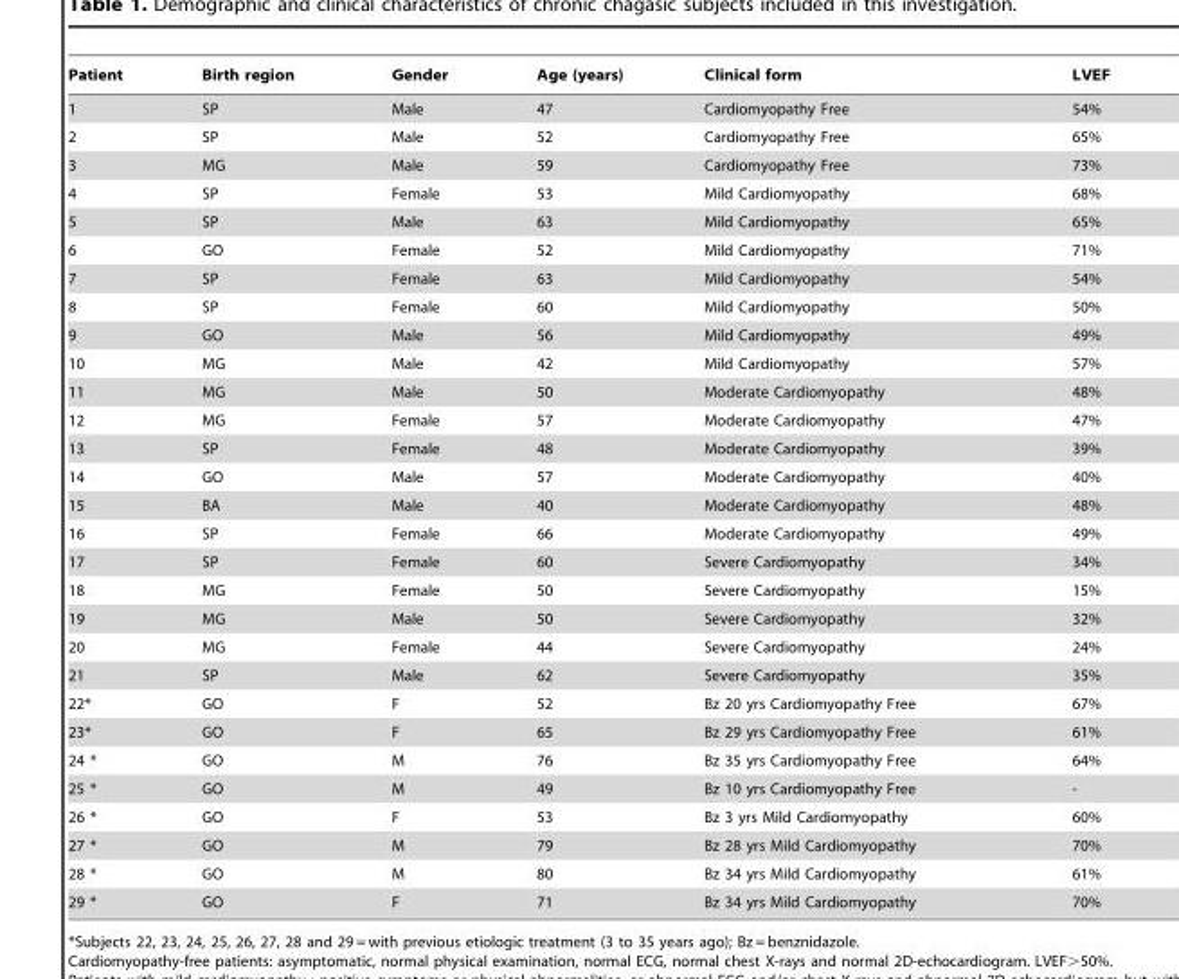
<table><thead><tr><td>Patient</td><td>Birth region</td><td>Gender</td><td>Age (years)</td><td>Clinical form</td><td>LVEF</td></tr></thead><tbody><tr><td>1</td><td>SP</td><td>Male</td><td>47</td><td>Cardiomyopathy Free</td><td>54%</td></tr><tr><td>2</td><td>SP</td><td>Male</td><td>52</td><td>Cardiomyopathy Free</td><td>65%</td></tr><tr><td>3</td><td>MG</td><td>Male</td><td>59</td><td>Cardiomyopathy Free</td><td>73%</td></tr><tr><td>4</td><td>SP</td><td>Female</td><td>53</td><td>Mild Cardiomyopathy</td><td>68%</td></tr><tr><td>5</td><td>SP</td><td>Male</td><td>63</td><td>Mild Cardiomyopathy</td><td>65%</td></tr><tr><td>6</td><td>GO</td><td>Female</td><td>52</td><td>Mild Cardiomyopathy</td><td>71%</td></tr><tr><td>7</td><td>SP</td><td>Female</td><td>63</td><td>Mild Cardiomyopathy</td><td>54%</td></tr><tr><td>8</td><td>SP</td><td>Female</td><td>60</td><td>Mild Cardiomyopathy</td><td>50%</td></tr><tr><td>9</td><td>GO</td><td>Male</td><td>56</td><td>Mild Cardiomyopathy</td><td>49%</td></tr><tr><td>10</td><td>MG</td><td>Male</td><td>42</td><td>Mild Cardiomyopathy</td><td>57%</td></tr><tr><td>11</td><td>MG</td><td>Male</td><td>50</td><td>Moderate Cardiomyopathy</td><td>48%</td></tr><tr><td>12</td><td>MG</td><td>Female</td><td>57</td><td>Moderate Cardiomyopathy</td><td>47%</td></tr><tr><td>13</td><td>SP</td><td>Female</td><td>48</td><td>Moderate Cardiomyopathy</td><td>39%</td></tr><tr><td>14</td><td>GO</td><td>Male</td><td>57</td><td>Moderate Cardiomyopathy</td><td>40%</td></tr><tr><td>15</td><td>BA</td><td>Male</td><td>40</td><td>Moderate Cardiomyopathy</td><td>48%</td></tr><tr><td>16</td><td>SP</td><td>Female</td><td>66</td><td>Moderate Cardiomyopathy</td><td>49%</td></tr><tr><td>17</td><td>SP</td><td>Female</td><td>60</td><td>Severe Cardiomyopathy</td><td>34%</td></tr><tr><td>18</td><td>MG</td><td>Female</td><td>50</td><td>Severe Cardiomyopathy</td><td>15%</td></tr><tr><td>19</td><td>MG</td><td>Male</td><td>50</td><td>Severe Cardiomyopathy</td><td>32%</td></tr><tr><td>20</td><td>MG</td><td>Female</td><td>44</td><td>Severe Cardiomyopathy</td><td>24%</td></tr><tr><td>21</td><td>SP</td><td>Male</td><td>62</td><td>Severe Cardiomyopathy</td><td>35%</td></tr><tr><td>22*</td><td>GO</td><td>F</td><td>52</td><td>Bz 20 yrs Cardiomyopathy Free</td><td>67%</td></tr><tr><td>23*</td><td>GO</td><td>F</td><td>65</td><td>Bz 29 yrs Cardiomyopathy Free</td><td>61%</td></tr><tr><td>24 *</td><td>GO</td><td>M</td><td>76</td><td>Bz 35 yrs Cardiomyopathy Free</td><td>64%</td></tr><tr><td>25 *</td><td>GO</td><td>M</td><td>49</td><td>Bz 10 yrs Cardiomyopathy Free</td><td>-</td></tr><tr><td>26 *</td><td>GO</td><td>F</td><td>53</td><td>Bz 3 yrs Mild Cardiomyopathy</td><td>60%</td></tr><tr><td>27 *</td><td>GO</td><td>M</td><td>79</td><td>Bz 28 yrs Mild Cardiomyopathy</td><td>70%</td></tr><tr><td>28 *</td><td>GO</td><td>M</td><td>80</td><td>Bz 34 yrs Mild Cardiomyopathy</td><td>61%</td></tr><tr><td>29 *</td><td>GO</td><td>F</td><td>71</td><td>Bz 34 yrs Mild Cardiomyopathy</td><td>70%</td></tr></tbody></table>